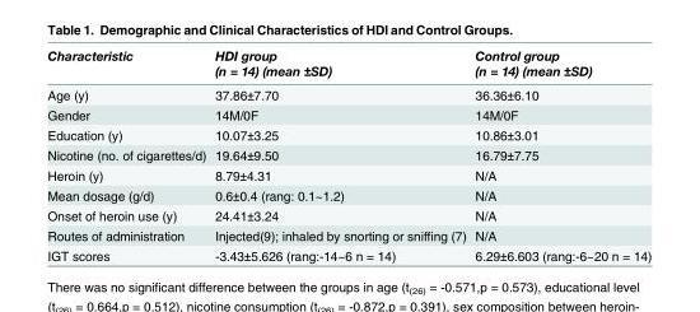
<table><thead><tr><td>Characteristic</td><td>HDI group (n = 14) (mean ±SD)</td><td>Control group (n = 14) (mean ±SD)</td></tr></thead><tbody><tr><td>Age (y)</td><td>37.86±7.70</td><td>36.36±6.10</td></tr><tr><td>Gender</td><td>14M/0F</td><td>14M/0F</td></tr><tr><td>Education (y)</td><td>10.07±3.25</td><td>10.86±3.01</td></tr><tr><td>Nicotine (no. of cigarettes/d)</td><td>19.64±9.50</td><td>16.79±7.75</td></tr><tr><td>Heroin (y)</td><td>8.79±4.31</td><td>N/A</td></tr><tr><td>Mean dosage (g/d)</td><td>0.6±0.4 (rang: 0.1~1.2)</td><td>N/A</td></tr><tr><td>Onset of heroin use (y)</td><td>24.41±3.24</td><td>N/A</td></tr><tr><td>Routes of administration</td><td>Injected(9); inhaled by snorting or sniffing (7)</td><td>N/A</td></tr><tr><td>IGT scores</td><td>-3.43±5.626 (rang:-14~6 n = 14)</td><td>6.29±6.603 (rang:-6~20 n = 14)</td></tr></tbody></table>